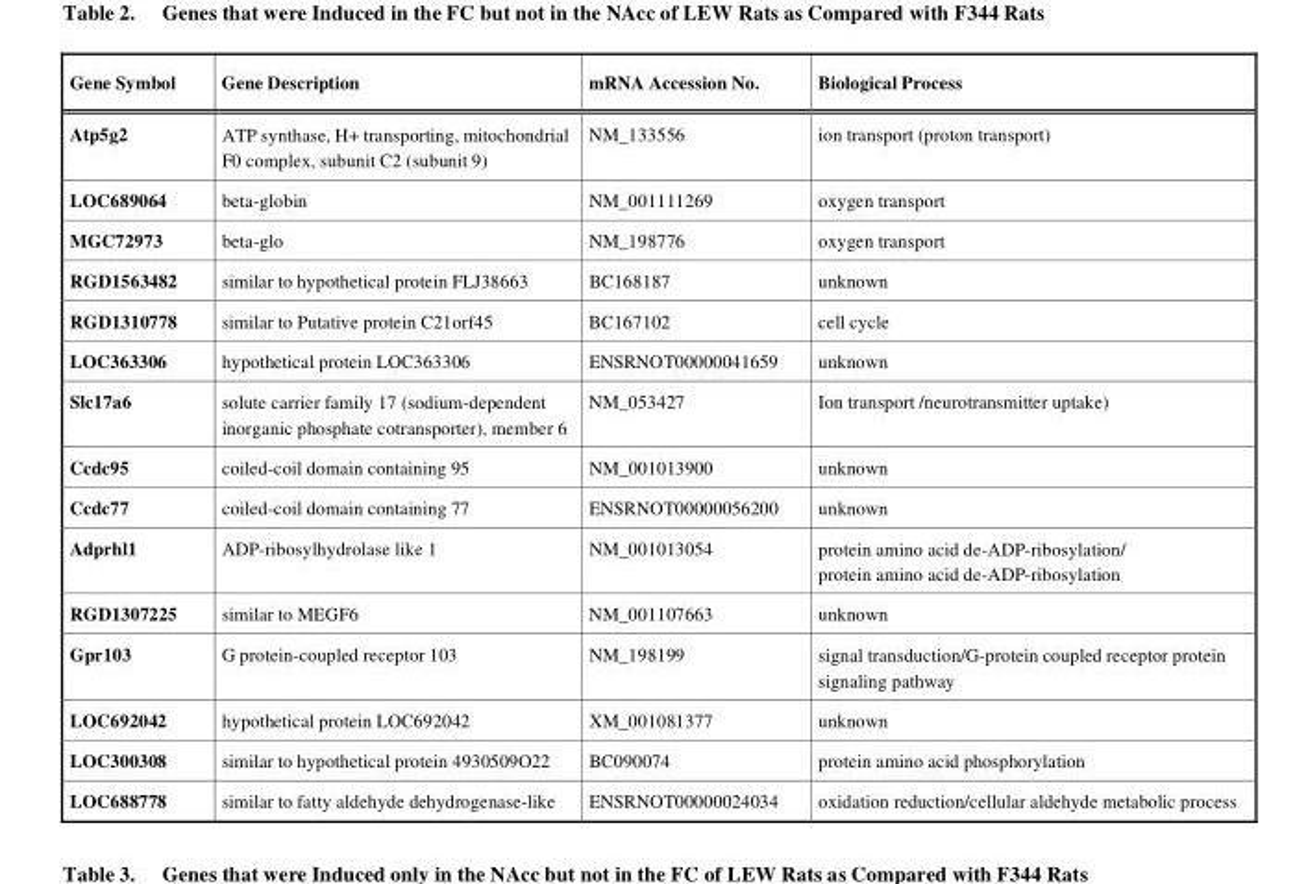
<table><thead><tr><td>Gene Symbol</td><td>Gene Description</td><td>mRNA Accession No.</td><td>Biological Process</td></tr></thead><tbody><tr><td>Atp5g2</td><td>ATP synthase, H+ transporting, mitochondrial F0 complex, subunit C2 (subunit 9)</td><td>NM_133556</td><td>ion transport (proton transport)</td></tr><tr><td>LOC689064</td><td>beta-globin</td><td>NM_001111269</td><td>oxygen transport</td></tr><tr><td>MGC72973</td><td>beta-glo</td><td>NM_198776</td><td>oxygen transport</td></tr><tr><td>RGD1563482</td><td>similar to hypothetical protein FLJ38663</td><td>BC168187</td><td>unknown</td></tr><tr><td>RGD1310778</td><td>similar to Putative protein C21orf45</td><td>BC167102</td><td>cell cycle</td></tr><tr><td>LOC363306</td><td>hypothetical protein LOC363306</td><td>ENSRNOT00000041659</td><td>unknown</td></tr><tr><td>Slc17a6</td><td>solute carrier family 17 (sodium-dependent inorganic phosphate cotransporter), member 6</td><td>NM_053427</td><td>Ion transport /neurotransmitter uptake)</td></tr><tr><td>Ccdc95</td><td>coiled-coil domain containing 95</td><td>NM_001013900</td><td>unknown</td></tr><tr><td>Ccdc77</td><td>coiled-coil domain containing 77</td><td>ENSRNOT00000056200</td><td>unknown</td></tr><tr><td>Adprhl1</td><td>ADP-ribosylhydrolase like 1</td><td>NM_001013054</td><td>protein amino acid de-ADP-ribosylation/ protein amino acid de-ADP-ribosylation</td></tr><tr><td>RGD1307225</td><td>similar to MEGF6</td><td>NM_001107663</td><td>unknown</td></tr><tr><td>Gpr103</td><td>G protein-coupled receptor 103</td><td>NM_198199</td><td>signal transduction/G-protein coupled receptor protein signaling pathway</td></tr><tr><td>LOC692042</td><td>hypothetical protein LOC692042</td><td>XM_001081377</td><td>unknown</td></tr><tr><td>LOC300308</td><td>similar to hypothetical protein 4930509O22</td><td>BC090074</td><td>protein amino acid phosphorylation</td></tr><tr><td>LOC688778</td><td>similar to fatty aldehyde dehydrogenase-like</td><td>ENSRNOT00000024034</td><td>oxidation reduction/cellular aldehyde metabolic process</td></tr></tbody></table>